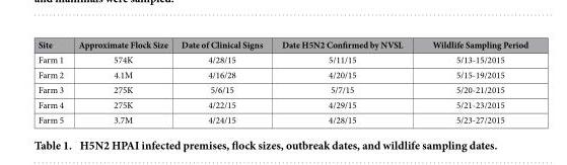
<table><thead><tr><td>Site</td><td>Approximate Flock Size</td><td>Date of Clinical Signs</td><td>Date H5N2 Confirmed by NVSL</td><td>Wildlife Sampling Period</td></tr></thead><tbody><tr><td>Farm 1</td><td>574K</td><td>4/28/15</td><td>5/11/15</td><td>5/13-15/2015</td></tr><tr><td>Farm 2</td><td>4.1M</td><td>4/16/28</td><td>4/20/15</td><td>5/15-19/2015</td></tr><tr><td>Farm 3</td><td>275K</td><td>5/6/15</td><td>5/7/15</td><td>5/20-21/2015</td></tr><tr><td>Farm 4</td><td>275K</td><td>4/22/15</td><td>4/29/15</td><td>5/21-23/2015</td></tr><tr><td>Farm 5</td><td>3.7M</td><td>4/24/15</td><td>4/28/15</td><td>5/23-27/2015</td></tr></tbody></table>